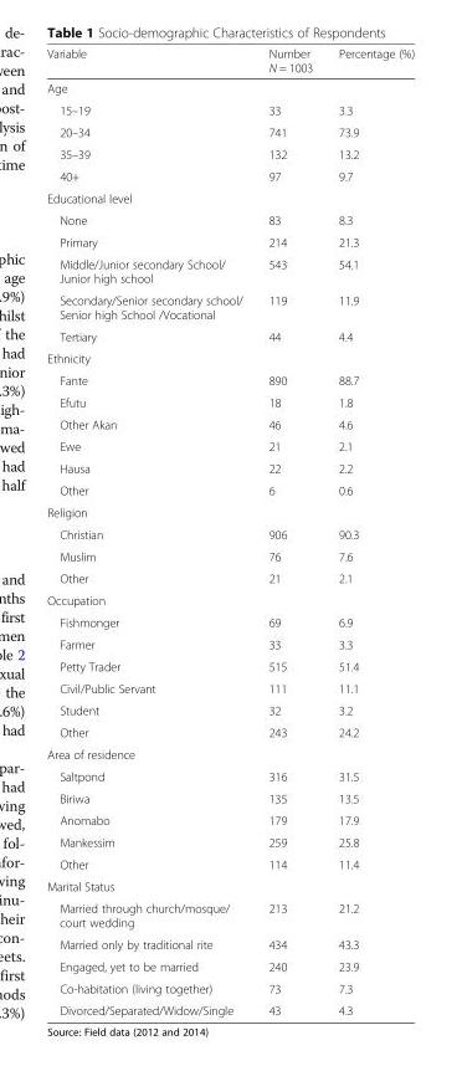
<table><thead><tr><td>Variable</td><td>Number N = 1003</td><td>Percentage (%)</td></tr></thead><tbody><tr><td colspan="3">Age</td></tr><tr><td>15–19</td><td>33</td><td>3.3</td></tr><tr><td>20–34</td><td>741</td><td>73.9</td></tr><tr><td>35–39</td><td>132</td><td>13.2</td></tr><tr><td>40+</td><td>97</td><td>9.7</td></tr><tr><td colspan="3">Educational level</td></tr><tr><td>None</td><td>83</td><td>8.3</td></tr><tr><td>Primary</td><td>214</td><td>21.3</td></tr><tr><td>Middle/Junior secondary School/ Junior high school</td><td>543</td><td>54.1</td></tr><tr><td>Secondary/Senior secondary school/ Senior high School /Vocational</td><td>119</td><td>11.9</td></tr><tr><td>Tertiary</td><td>44</td><td>4.4</td></tr><tr><td colspan="3">Ethnicity</td></tr><tr><td>Fante</td><td>890</td><td>88.7</td></tr><tr><td>Efutu</td><td>18</td><td>1.8</td></tr><tr><td>Other Akan</td><td>46</td><td>4.6</td></tr><tr><td>Ewe</td><td>21</td><td>2.1</td></tr><tr><td>Hausa</td><td>22</td><td>2.2</td></tr><tr><td>Other</td><td>6</td><td>0.6</td></tr><tr><td colspan="3">Religion</td></tr><tr><td>Christian</td><td>906</td><td>90.3</td></tr><tr><td>Muslim</td><td>76</td><td>7.6</td></tr><tr><td>Other</td><td>21</td><td>2.1</td></tr><tr><td colspan="3">Occupation</td></tr><tr><td>Fishmonger</td><td>69</td><td>6.9</td></tr><tr><td>Farmer</td><td>33</td><td>3.3</td></tr><tr><td>Petty Trader</td><td>515</td><td>51.4</td></tr><tr><td>Civil/Public Servant</td><td>111</td><td>11.1</td></tr><tr><td>Student</td><td>32</td><td>3.2</td></tr><tr><td>Other</td><td>243</td><td>24.2</td></tr><tr><td colspan="3">Area of residence</td></tr><tr><td>Saltpond</td><td>316</td><td>31.5</td></tr><tr><td>Biriwa</td><td>135</td><td>13.5</td></tr><tr><td>Anomabo</td><td>179</td><td>17.9</td></tr><tr><td>Mankessim</td><td>259</td><td>25.8</td></tr><tr><td>Other</td><td>114</td><td>11.4</td></tr><tr><td colspan="3">Marital Status</td></tr><tr><td>Married through church/mosque/ court wedding</td><td>213</td><td>21.2</td></tr><tr><td>Married only by traditional rite</td><td>434</td><td>43.3</td></tr><tr><td>Engaged, yet to be married</td><td>240</td><td>23.9</td></tr><tr><td>Co-habitation (living together)</td><td>73</td><td>7.3</td></tr><tr><td>Divorced/Separated/Widow/Single</td><td>43</td><td>4.3</td></tr></tbody></table>